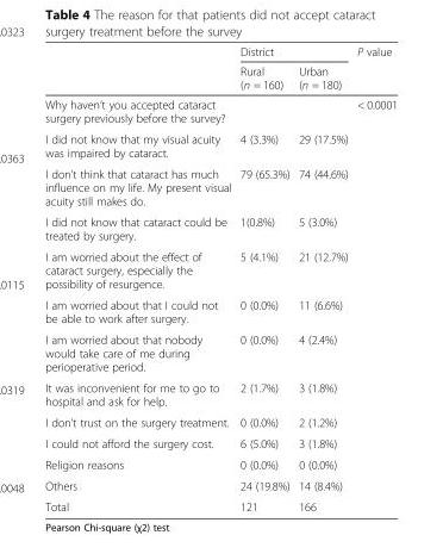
<table><thead><tr><td rowspan="2"></td><td colspan="2">District</td><td rowspan="2">P value</td></tr><tr><td>Rural (n = 160)</td><td>Urban (n = 180)</td></tr></thead><tbody><tr><td>Why haven’t you accepted cataract surgery previously before the survey?</td><td></td><td></td><td>&lt; 0.0001</td></tr><tr><td>I did not know that my visual acuity was impaired by cataract.</td><td>4 (3.3%)</td><td>29 (17.5%)</td><td></td></tr><tr><td>I don’t think that cataract has much influence on my life. My present visual acuity still makes do.</td><td>79 (65.3%)</td><td>74 (44.6%)</td><td></td></tr><tr><td>I did not know that cataract could be treated by surgery.</td><td>1(0.8%)</td><td>5 (3.0%)</td><td></td></tr><tr><td>I am worried about the effect of cataract surgery, especially the possibility of resurgence.</td><td>5 (4.1%)</td><td>21 (12.7%)</td><td></td></tr><tr><td>I am worried about that I could not be able to work after surgery.</td><td>0 (0.0%)</td><td>11 (6.6%)</td><td></td></tr><tr><td>I am worried about that nobody would take care of me during perioperative period.</td><td>0 (0.0%)</td><td>4 (2.4%)</td><td></td></tr><tr><td>It was inconvenient for me to go to hospital and ask for help.</td><td>2 (1.7%)</td><td>3 (1.8%)</td><td></td></tr><tr><td>I don’t trust on the surgery treatment.</td><td>0 (0.0%)</td><td>2 (1.2%)</td><td></td></tr><tr><td>I could not afford the surgery cost.</td><td>6 (5.0%)</td><td>3 (1.8%)</td><td></td></tr><tr><td>Religion reasons</td><td>0 (0.0%)</td><td>0 (0.0%)</td><td></td></tr><tr><td>Others</td><td>24 (19.8%)</td><td>14 (8.4%)</td><td></td></tr><tr><td>Total</td><td>121</td><td>166</td><td></td></tr></tbody></table>